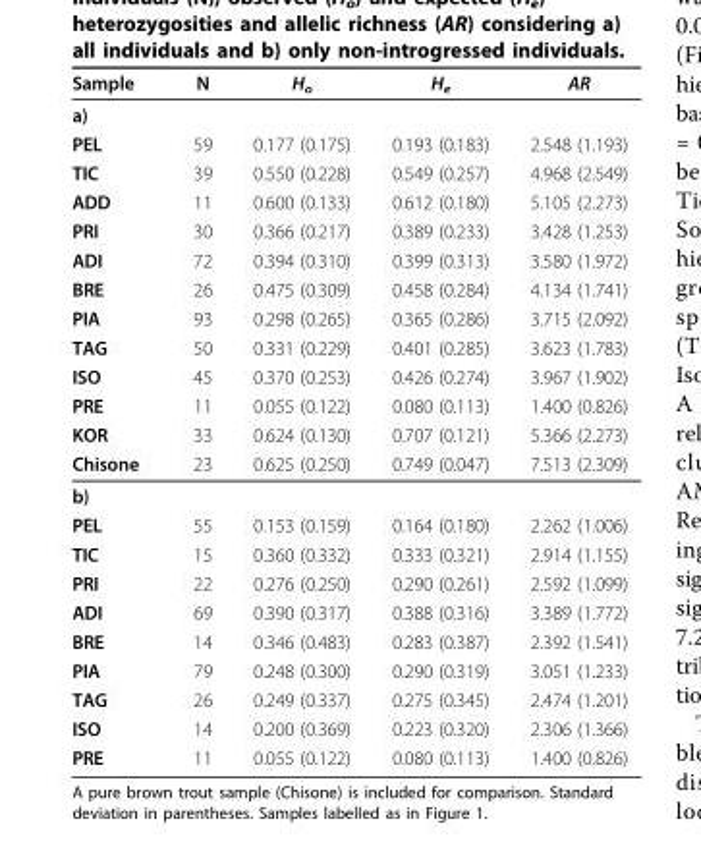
<table><thead><tr><td>Sample</td><td>N</td><td>H<sub>o</sub></td><td>H<sub>e</sub></td><td>AR</td></tr></thead><tbody><tr><td colspan="5">a)</td></tr><tr><td>PEL</td><td>59</td><td>0.177 (0.175)</td><td>0.193 (0.183)</td><td>2.548 (1.193)</td></tr><tr><td>TIC</td><td>39</td><td>0.550 (0.228)</td><td>0.549 (0.257)</td><td>4.968 (2.549)</td></tr><tr><td>ADD</td><td>11</td><td>0.600 (0.133)</td><td>0.612 (0.180)</td><td>5.105 (2.273)</td></tr><tr><td>PRI</td><td>30</td><td>0.366 (0.217)</td><td>0.389 (0.233)</td><td>3.428 (1.253)</td></tr><tr><td>ADI</td><td>72</td><td>0.394 (0.310)</td><td>0.399 (0.313)</td><td>3.580 (1.972)</td></tr><tr><td>BRE</td><td>26</td><td>0.475 (0.309)</td><td>0.458 (0.284)</td><td>4.134 (1.741)</td></tr><tr><td>PIA</td><td>93</td><td>0.298 (0.265)</td><td>0.365 (0.286)</td><td>3.715 (2.092)</td></tr><tr><td>TAG</td><td>50</td><td>0.331 (0.229)</td><td>0.401 (0.285)</td><td>3.623 (1.783)</td></tr><tr><td>ISO</td><td>45</td><td>0.370 (0.253)</td><td>0.426 (0.274)</td><td>3.967 (1.902)</td></tr><tr><td>PRE</td><td>11</td><td>0.055 (0.122)</td><td>0.080 (0.113)</td><td>1.400 (0.826)</td></tr><tr><td>KOR</td><td>33</td><td>0.624 (0.130)</td><td>0.707 (0.121)</td><td>5.366 (2.273)</td></tr><tr><td>Chisone</td><td>23</td><td>0.625 (0.250)</td><td>0.749 (0.047)</td><td>7.513 (2.309)</td></tr><tr><td colspan="5">b)</td></tr><tr><td>PEL</td><td>55</td><td>0.153 (0.159)</td><td>0.164 (0.180)</td><td>2.262 (1.006)</td></tr><tr><td>TIC</td><td>15</td><td>0.360 (0.332)</td><td>0.333 (0.321)</td><td>2.914 (1.155)</td></tr><tr><td>PRI</td><td>22</td><td>0.276 (0.250)</td><td>0.290 (0.261)</td><td>2.592 (1.099)</td></tr><tr><td>ADI</td><td>69</td><td>0.390 (0.317)</td><td>0.388 (0.316)</td><td>3.389 (1.772)</td></tr><tr><td>BRE</td><td>14</td><td>0.346 (0.483)</td><td>0.283 (0.387)</td><td>2.392 (1.541)</td></tr><tr><td>PIA</td><td>79</td><td>0.248 (0.300)</td><td>0.290 (0.319)</td><td>3.051 (1.233)</td></tr><tr><td>TAG</td><td>26</td><td>0.249 (0.337)</td><td>0.275 (0.345)</td><td>2.474 (1.201)</td></tr><tr><td>ISO</td><td>14</td><td>0.200 (0.369)</td><td>0.223 (0.320)</td><td>2.306 (1.366)</td></tr><tr><td>PRE</td><td>11</td><td>0.055 (0.122)</td><td>0.080 (0.113)</td><td>1.400 (0.826)</td></tr></tbody></table>